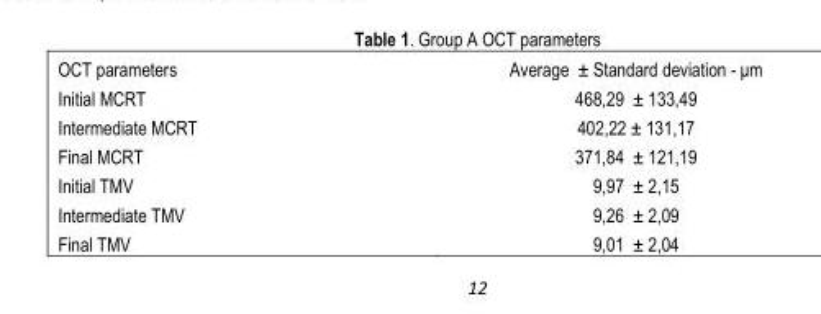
<table><tbody><tr><td>OCT parameters</td><td>Average ± Standard deviation - μm</td></tr><tr><td>Initial MCRT</td><td>468,29 ± 133,49</td></tr><tr><td>Intermediate MCRT</td><td>402,22 ± 131,17</td></tr><tr><td>Final MCRT</td><td>371,84 ± 121,19</td></tr><tr><td>Initial TMV</td><td>9,97 ± 2,15</td></tr><tr><td>Intermediate TMV</td><td>9,26 ± 2,09</td></tr><tr><td>Final TMV</td><td>9,01 ± 2,04</td></tr></tbody></table>